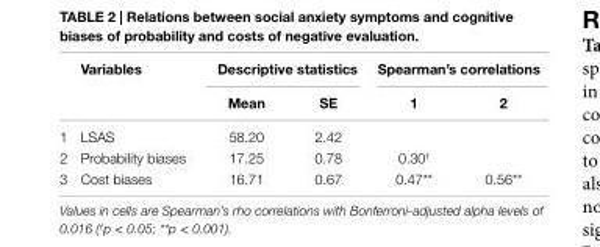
<table><thead><tr><td rowspan="2"></td><td rowspan="2">Variables</td><td colspan="2">Descriptive statistics</td><td colspan="2">spearman’s correlations</td></tr><tr><td>Mean</td><td>se</td><td>1</td><td>2</td></tr></thead><tbody><tr><td>1</td><td>LSAS</td><td>58.20</td><td>2.42</td><td></td><td></td></tr><tr><td>2</td><td>Probability biases</td><td>17.25</td><td>0.78</td><td>0.30<sup>†</sup></td><td></td></tr><tr><td>3</td><td>Cost biases</td><td>16.71</td><td>0.67</td><td>0.47**</td><td>0.56**</td></tr></tbody></table>